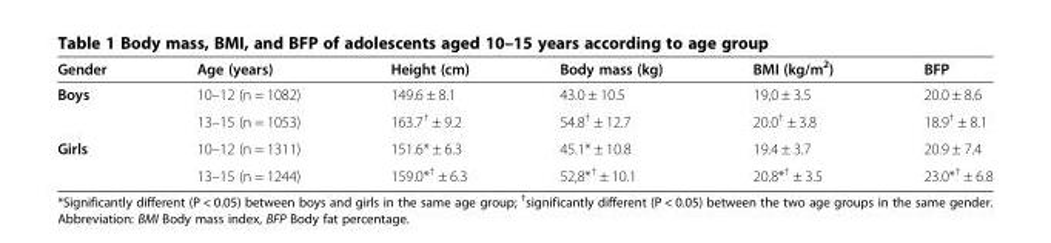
<table><thead><tr><td>Gender</td><td>Age (years)</td><td>Height (cm)</td><td>Body mass (kg)</td><td>BMI (kg/m<sup>2</sup>)</td><td>BFP</td></tr></thead><tbody><tr><td rowspan="2">Boys</td><td>10–12 (n = 1082)</td><td>149.6 ± 8.1</td><td>43.0 ± 10.5</td><td>19,0 ± 3.5</td><td>20.0 ± 8.6</td></tr><tr><td>13–15 (n = 1053)</td><td>163.7<sup>†</sup> ± 9.2</td><td>54.8<sup>†</sup> ± 12.7</td><td>20.0<sup>†</sup> ± 3.8</td><td>18.9<sup>†</sup> ± 8.1</td></tr><tr><td rowspan="2">Girls</td><td>10–12 (n = 1311)</td><td>151.6* ± 6.3</td><td>45.1* ± 10.8</td><td>19.4 ± 3.7</td><td>20.9 ± 7.4</td></tr><tr><td>13–15 (n = 1244)</td><td>159.0*<sup>†</sup> ± 6.3</td><td>52,8*<sup>†</sup> ± 10.1</td><td>20.8*<sup>†</sup> ± 3.5</td><td>23.0*<sup>†</sup> ± 6.8</td></tr></tbody></table>